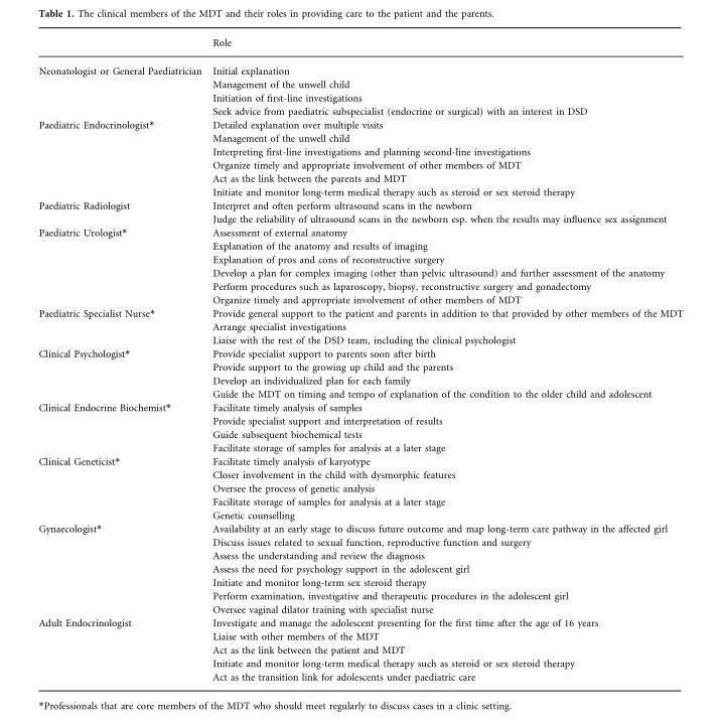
<table><thead><tr><td></td><td>Role</td></tr></thead><tbody><tr><td rowspan="4">Neonatologist or General Paediatrician</td><td>Initial explanation</td></tr><tr><td>Management of the unwell child</td></tr><tr><td>Initiation of first-line investigations</td></tr><tr><td>Seek advice from paediatric subspecialist (endocrine or surgical) with an interest in DSD</td></tr><tr><td rowspan="6">Paediatric Endocrinologist*</td><td>Detailed explanation over multiple visits</td></tr><tr><td>Management of the unwell child</td></tr><tr><td>Interpreting first-line investigations and planning second-line investigations</td></tr><tr><td>Organize timely and appropriate involvement of other members of MDT</td></tr><tr><td>Act as the link between the parents and MDT</td></tr><tr><td>Initiate and monitor long-term medical therapy such as steroid or sex steroid therapy</td></tr><tr><td rowspan="2">Paediatric Radiologist</td><td>Interpret and often perform ultrasound scans in the newborn</td></tr><tr><td>Judge the reliability of ultrasound scans in the newborn esp. when the results may influence sex assignment</td></tr><tr><td rowspan="6">Paediatric Urologist*</td><td>Assessment of external anatomy</td></tr><tr><td>Explanation of the anatomy and results of imaging</td></tr><tr><td>Explanation of pros and cons of reconstructive surgery</td></tr><tr><td>Develop a plan for complex imaging (other than pelvic ultrasound) and further assessment of the anatomy</td></tr><tr><td>Perform procedures such as laparoscopy, biopsy, reconstructive surgery and gonadectomy</td></tr><tr><td>Organize timely and appropriate involvement of other members of MDT</td></tr><tr><td rowspan="3">Paediatric Specialist Nurse*</td><td>Provide general support to the patient and parents in addition to that provided by other members of the MDT</td></tr><tr><td>Arrange specialist investigations</td></tr><tr><td>Liaise with the rest of the DSD team, including the clinical psychologist</td></tr><tr><td rowspan="4">Clinical Psychologist*</td><td>Provide specialist support to parents soon after birth</td></tr><tr><td>Provide support to the growing up child and the parents</td></tr><tr><td>Develop an individualized plan for each family</td></tr><tr><td>Guide the MDT on timing and tempo of explanation of the condition to the older child and adolescent</td></tr><tr><td rowspan="4">Clinical Endocrine Biochemist*</td><td>Facilitate timely analysis of samples</td></tr><tr><td>Provide specialist support and interpretation of results</td></tr><tr><td>Guide subsequent biochemical tests</td></tr><tr><td>Facilitate storage of samples for analysis at a later stage</td></tr><tr><td rowspan="5">Clinical Geneticist*</td><td>Facilitate timely analysis of karyotype</td></tr><tr><td>Closer involvement in the child with dysmorphic features</td></tr><tr><td>Oversee the process of genetic analysis</td></tr><tr><td>Facilitate storage of samples for analysis at a later stage</td></tr><tr><td>Genetic counselling</td></tr><tr><td rowspan="7">Gynaecologist*</td><td>Availability at an early stage to discuss future outcome and map long-term care pathway in the affected girl</td></tr><tr><td>Discuss issues related to sexual function, reproductive function and surgery</td></tr><tr><td>Assess the understanding and review the diagnosis</td></tr><tr><td>Assess the need for psychology support in the adolescent girl</td></tr><tr><td>Initiate and monitor long-term sex steroid therapy</td></tr><tr><td>Perform examination, investigative and therapeutic procedures in the adolescent girl</td></tr><tr><td>Oversee vaginal dilator training with specialist nurse</td></tr><tr><td rowspan="5">Adult Endocrinologist</td><td>Investigate and manage the adolescent presenting for the first time after the age of 16 years</td></tr><tr><td>Liaise with other members of the MDT</td></tr><tr><td>Act as the link between the patient and MDT</td></tr><tr><td>Initiate and monitor long-term medical therapy such as steroid or sex steroid therapy</td></tr><tr><td>Act as the transition link for adolescents under paediatric care</td></tr></tbody></table>